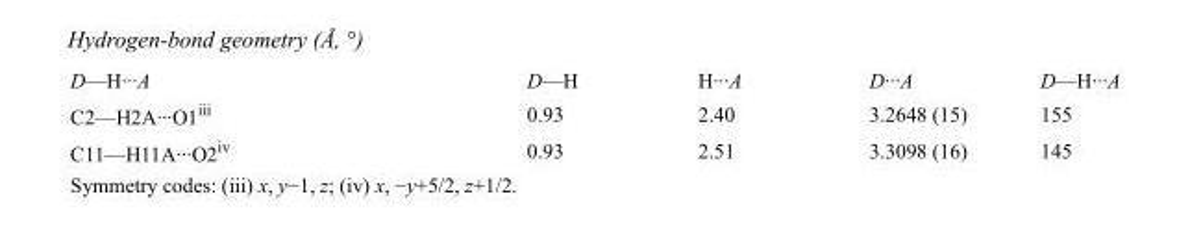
<table><tbody><tr><td>D—H···A</td><td>D—H</td><td>H···A</td><td>D···A</td><td>D—H···A</td></tr><tr><td>C2—H2A···O1<sup>iii</sup></td><td>0.93</td><td>2.40</td><td>3.2648 (15)</td><td>155</td></tr><tr><td>C11—H11A···O2<sup>iv</sup></td><td>0.93</td><td>2.51</td><td>3.3098 (16)</td><td>145</td></tr></tbody></table>